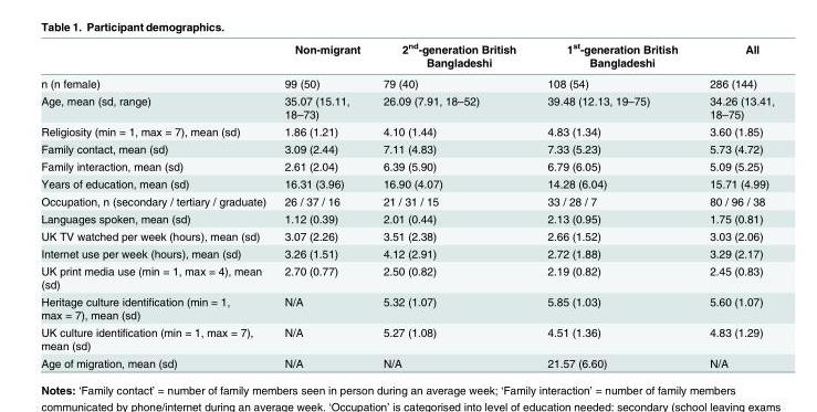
<table><thead><tr><td></td><td>Non-migrant</td><td>2<sup>nd</sup>-generation British Bangladeshi</td><td>1<sup>st</sup>-generation British Bangladeshi</td><td>All</td></tr></thead><tbody><tr><td>n (n female)</td><td>99 (50)</td><td>79 (40)</td><td>108 (54)</td><td>286 (144)</td></tr><tr><td>Age, mean (sd, range)</td><td>35.07 (15.11, 18–73)</td><td>26.09 (7.91, 18–52)</td><td>39.48 (12.13, 19–75)</td><td>34.26 (13.41, 18–75)</td></tr><tr><td>Religiosity (min = 1, max = 7), mean (sd)</td><td>1.86 (1.21)</td><td>4.10 (1.44)</td><td>4.83 (1.34)</td><td>3.60 (1.85)</td></tr><tr><td>Family contact, mean (sd)</td><td>3.09 (2.44)</td><td>7.11 (4.83)</td><td>7.33 (5.23)</td><td>5.73 (4.72)</td></tr><tr><td>Family interaction, mean (sd)</td><td>2.61 (2.04)</td><td>6.39 (5.90)</td><td>6.79 (6.05)</td><td>5.09 (5.25)</td></tr><tr><td>Years of education, mean (sd)</td><td>16.31 (3.96)</td><td>16.90 (4.07)</td><td>14.28 (6.04)</td><td>15.71 (4.99)</td></tr><tr><td>Occupation, n (secondary / tertiary / graduate)</td><td>26 / 37 / 16</td><td>21 / 31 / 15</td><td>33 / 28 / 7</td><td>80 / 96 / 38</td></tr><tr><td>Languages spoken, mean (sd)</td><td>1.12 (0.39)</td><td>2.01 (0.44)</td><td>2.13 (0.95)</td><td>1.75 (0.81)</td></tr><tr><td>UK TV watched per week (hours), mean (sd)</td><td>3.07 (2.26)</td><td>3.51 (2.38)</td><td>2.66 (1.52)</td><td>3.03 (2.06)</td></tr><tr><td>Internet use per week (hours), mean (sd)</td><td>3.26 (1.51)</td><td>4.12 (2.91)</td><td>2.72 (1.88)</td><td>3.29 (2.17)</td></tr><tr><td>UK print media use (min = 1, max = 4), mean (sd)</td><td>2.70 (0.77)</td><td>2.50 (0.82)</td><td>2.19 (0.82)</td><td>2.45 (0.83)</td></tr><tr><td>Heritage culture identification (min = 1, max = 7), mean (sd)</td><td>N/A</td><td>5.32 (1.07)</td><td>5.85 (1.03)</td><td>5.60 (1.07)</td></tr><tr><td>UK culture identification (min = 1, max = 7), mean (sd)</td><td>N/A</td><td>5.27 (1.08)</td><td>4.51 (1.36)</td><td>4.83 (1.29)</td></tr><tr><td>Age of migration, mean (sd)</td><td>N/A</td><td>N/A</td><td>21.57 (6.60)</td><td>N/A</td></tr></tbody></table>